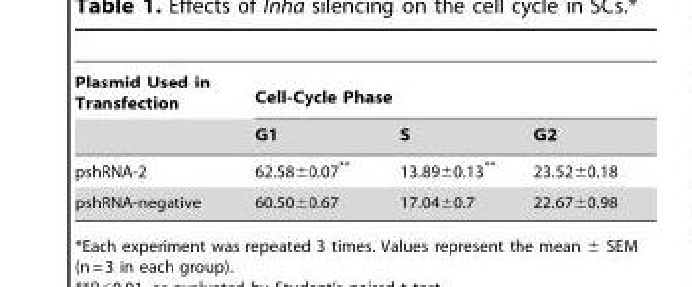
<table><thead><tr><td rowspan="2">Plasmid Used in Transfection</td><td colspan="3">Cell-Cycle Phase</td></tr><tr><td>G1</td><td>S</td><td>G2</td></tr></thead><tbody><tr><td>pshRNA-2</td><td>62.58±0.07**</td><td>13.89±0.13**</td><td>23.52±0.18</td></tr><tr><td>pshRNA-negative</td><td>60.50±0.67</td><td>17.04±0.7</td><td>22.67±0.98</td></tr></tbody></table>